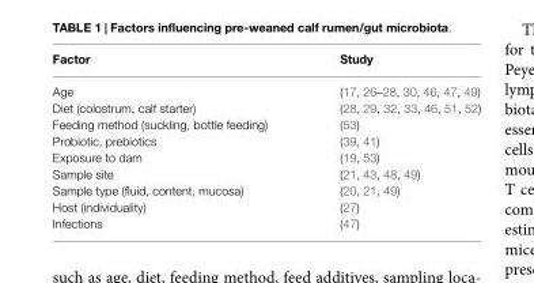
<table><thead><tr><td>Factor</td><td>Study</td></tr></thead><tbody><tr><td>Age</td><td>(17, 26–28, 30, 46, 47, 49)</td></tr><tr><td>Diet (colostrum, calf starter)</td><td>(28, 29, 32, 33, 46, 51, 52)</td></tr><tr><td>Feeding method (suckling, bottle feeding)</td><td>(53)</td></tr><tr><td>Probiotic, prebiotics</td><td>(39, 41)</td></tr><tr><td>Exposure to dam</td><td>(19, 53)</td></tr><tr><td>Sample site</td><td>(21, 43, 48, 49)</td></tr><tr><td>Sample type (fluid, content, mucosa)</td><td>(20, 21, 49)</td></tr><tr><td>Host (individuality)</td><td>(27)</td></tr><tr><td>Infections</td><td>(47)</td></tr></tbody></table>